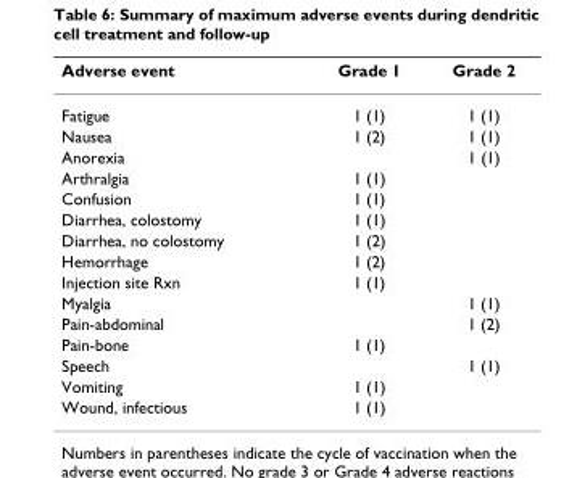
<table><thead><tr><td>Adverse event</td><td>Grade 1</td><td>Grade 2</td></tr></thead><tbody><tr><td>Fatigue</td><td>1 (1)</td><td>1 (1)</td></tr><tr><td>Nausea</td><td>1 (2)</td><td>1 (1)</td></tr><tr><td>Anorexia</td><td></td><td>1 (1)</td></tr><tr><td>Arthralgia</td><td>1 (1)</td><td></td></tr><tr><td>Confusion</td><td>1 (1)</td><td></td></tr><tr><td>Diarrhea, colostomy</td><td>1 (1)</td><td></td></tr><tr><td>Diarrhea, no colostomy</td><td>1 (2)</td><td></td></tr><tr><td>Hemorrhage</td><td>1 (2)</td><td></td></tr><tr><td>Injection site Rxn</td><td>1 (1)</td><td></td></tr><tr><td>Myalgia</td><td></td><td>1 (1)</td></tr><tr><td>Pain-abdominal</td><td></td><td>1 (2)</td></tr><tr><td>Pain-bone</td><td>1 (1)</td><td></td></tr><tr><td>Speech</td><td></td><td>1 (1)</td></tr><tr><td>Vomiting</td><td>1 (1)</td><td></td></tr><tr><td>Wound, infectious</td><td>1 (1)</td><td></td></tr></tbody></table>